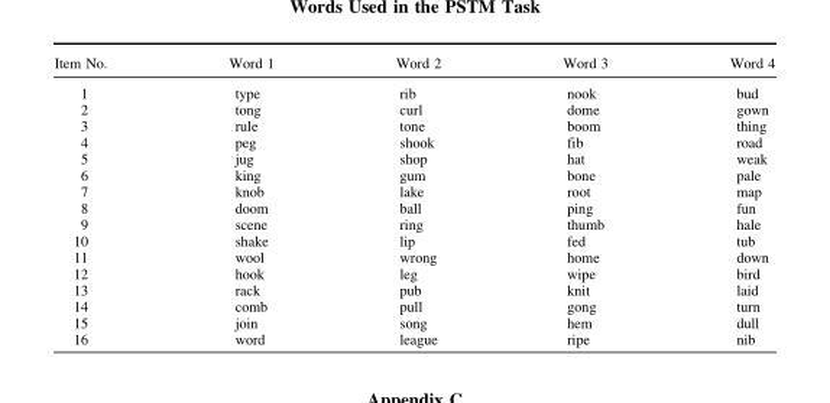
<table><thead><tr><td>Item No.</td><td>Word 1</td><td>Word 2</td><td>Word 3</td><td>Word 4</td></tr></thead><tbody><tr><td>1</td><td>type</td><td>rib</td><td>nook</td><td>bud</td></tr><tr><td>2</td><td>tong</td><td>curl</td><td>dome</td><td>gown</td></tr><tr><td>3</td><td>rule</td><td>tone</td><td>boom</td><td>thing</td></tr><tr><td>4</td><td>peg</td><td>shook</td><td>fib</td><td>road</td></tr><tr><td>5</td><td>jug</td><td>shop</td><td>hat</td><td>weak</td></tr><tr><td>6</td><td>king</td><td>gum</td><td>bone</td><td>pale</td></tr><tr><td>7</td><td>knob</td><td>lake</td><td>root</td><td>map</td></tr><tr><td>8</td><td>doom</td><td>ball</td><td>ping</td><td>fun</td></tr><tr><td>9</td><td>scene</td><td>ring</td><td>thumb</td><td>hale</td></tr><tr><td>10</td><td>shake</td><td>lip</td><td>fed</td><td>tub</td></tr><tr><td>11</td><td>wool</td><td>wrong</td><td>home</td><td>down</td></tr><tr><td>12</td><td>hook</td><td>leg</td><td>wipe</td><td>bird</td></tr><tr><td>13</td><td>rack</td><td>pub</td><td>knit</td><td>laid</td></tr><tr><td>14</td><td>comb</td><td>pull</td><td>gong</td><td>turn</td></tr><tr><td>15</td><td>join</td><td>song</td><td>hem</td><td>dull</td></tr><tr><td>16</td><td>word</td><td>league</td><td>ripe</td><td>nib</td></tr></tbody></table>